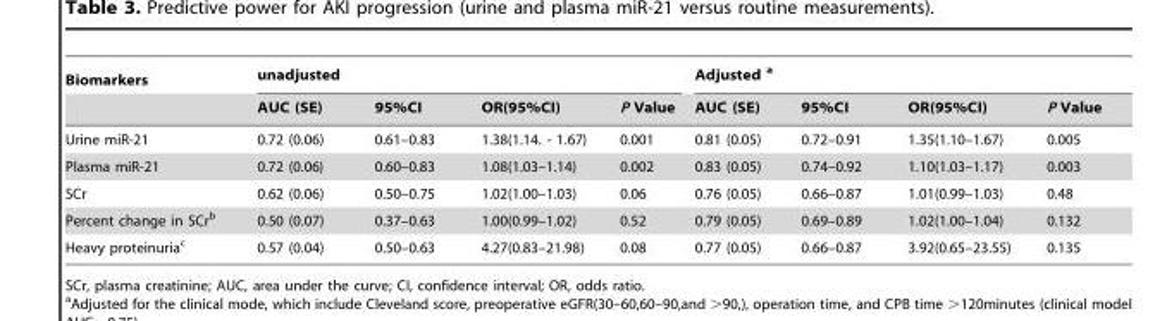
<table><thead><tr><td rowspan="2">Biomarkers</td><td colspan="4">unadjusted</td><td colspan="4">Adjusted a</td></tr><tr><td>AUC (SE)</td><td>95%CI</td><td>OR(95%CI)</td><td>P Value</td><td>AUC (SE)</td><td>95%CI</td><td>OR(95%CI)</td><td>P Value</td></tr></thead><tbody><tr><td>Urine miR-21</td><td>0.72 (0.06)</td><td>0.61–0.83</td><td>1.38(1.14. - 1.67)</td><td>0.001</td><td>0.81 (0.05)</td><td>0.72–0.91</td><td>1.35(1.10–1.67)</td><td>0.005</td></tr><tr><td>Plasma miR-21</td><td>0.72 (0.06)</td><td>0.60–0.83</td><td>1.08(1.03–1.14)</td><td>0.002</td><td>0.83 (0.05)</td><td>0.74–0.92</td><td>1.10(1.03–1.17)</td><td>0.003</td></tr><tr><td>SCr</td><td>0.62 (0.06)</td><td>0.50–0.75</td><td>1.02(1.00–1.03)</td><td>0.06</td><td>0.76 (0.05)</td><td>0.66–0.87</td><td>1.01(0.99–1.03)</td><td>0.48</td></tr><tr><td>Percent change in SCr<sup>b</sup></td><td>0.50 (0.07)</td><td>0.37–0.63</td><td>1.00(0.99–1.02)</td><td>0.52</td><td>0.79 (0.05)</td><td>0.69–0.89</td><td>1.02(1.00–1.04)</td><td>0.132</td></tr><tr><td>Heavy proteinuria<sup>c</sup></td><td>0.57 (0.04)</td><td>0.50–0.63</td><td>4.27(0.83–21.98)</td><td>0.08</td><td>0.77 (0.05)</td><td>0.66–0.87</td><td>3.92(0.65–23.55)</td><td>0.135</td></tr></tbody></table>